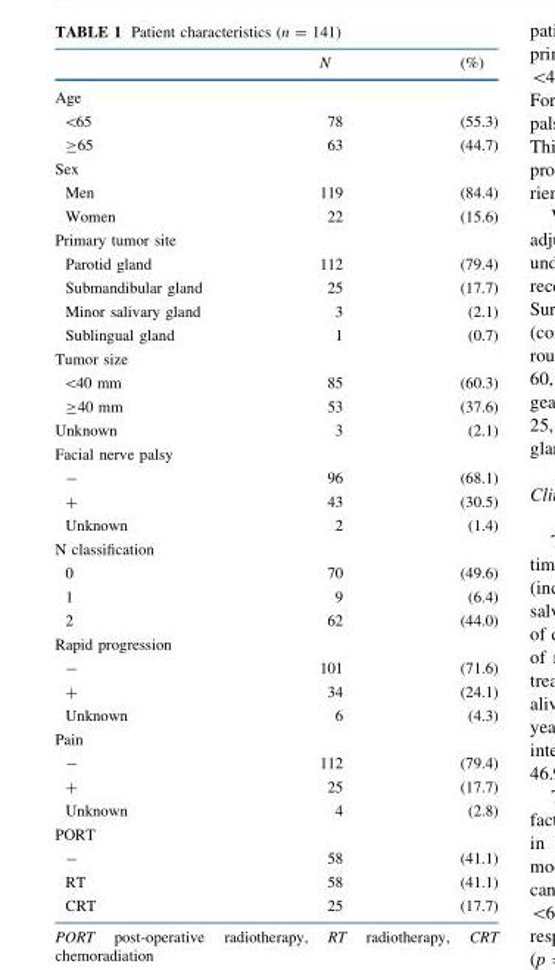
<table><thead><tr><td></td><td>N</td><td>(%)</td></tr></thead><tbody><tr><td colspan="3">Age</td></tr><tr><td>&lt;65</td><td>78</td><td>(55.3)</td></tr><tr><td>≥65</td><td>63</td><td>(44.7)</td></tr><tr><td colspan="3">Sex</td></tr><tr><td>Men</td><td>119</td><td>(84.4)</td></tr><tr><td>Women</td><td>22</td><td>(15.6)</td></tr><tr><td colspan="3">Primary tumor site</td></tr><tr><td>Parotid gland</td><td>112</td><td>(79.4)</td></tr><tr><td>Submandibular gland</td><td>25</td><td>(17.7)</td></tr><tr><td>Minor salivary gland</td><td>3</td><td>(2.1)</td></tr><tr><td>Sublingual gland</td><td>1</td><td>(0.7)</td></tr><tr><td colspan="3">Tumor size</td></tr><tr><td>&lt;40 mm</td><td>85</td><td>(60.3)</td></tr><tr><td>≥40 mm</td><td>53</td><td>(37.6)</td></tr><tr><td>Unknown</td><td>3</td><td>(2.1)</td></tr><tr><td colspan="3">Facial nerve palsy</td></tr><tr><td>-</td><td>96</td><td>(68.1)</td></tr><tr><td>+</td><td>43</td><td>(30.5)</td></tr><tr><td>Unknown</td><td>2</td><td>(1.4)</td></tr><tr><td colspan="3">N classification</td></tr><tr><td>0</td><td>70</td><td>(49.6)</td></tr><tr><td>1</td><td>9</td><td>(6.4)</td></tr><tr><td>2</td><td>62</td><td>(44.0)</td></tr><tr><td colspan="3">Rapid progression</td></tr><tr><td>-</td><td>101</td><td>(71.6)</td></tr><tr><td>+</td><td>34</td><td>(24.1)</td></tr><tr><td>Unknown</td><td>6</td><td>(4.3)</td></tr><tr><td colspan="3">Pain</td></tr><tr><td>-</td><td>112</td><td>(79.4)</td></tr><tr><td>+</td><td>25</td><td>(17.7)</td></tr><tr><td>Unknown</td><td>4</td><td>(2.8)</td></tr><tr><td colspan="3">PORT</td></tr><tr><td>-</td><td>58</td><td>(41.1)</td></tr><tr><td>RT</td><td>58</td><td>(41.1)</td></tr><tr><td>CRT</td><td>25</td><td>(17.7)</td></tr></tbody></table>